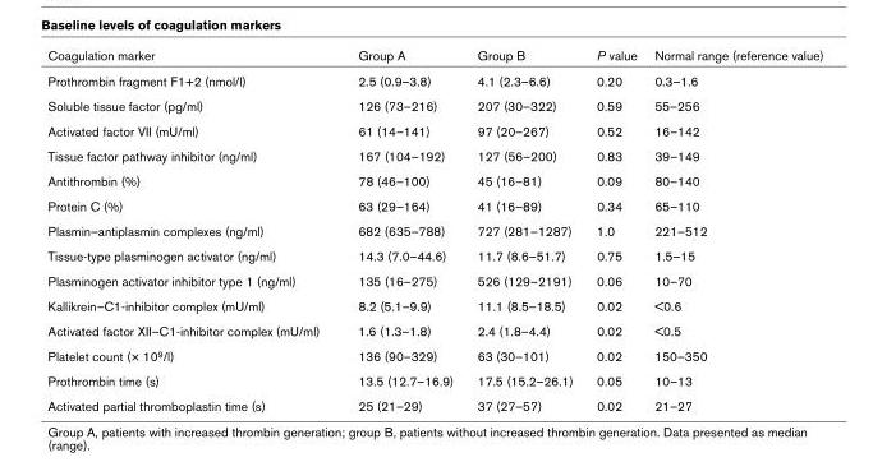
<table><thead><tr><td>Coagulation marker</td><td>Group A</td><td>Group B</td><td>P value</td><td>Normal range (reference value)</td></tr></thead><tbody><tr><td>Prothrombin fragment F1+2 (nmol/l)</td><td>2.5 (0.9–3.8)</td><td>4.1 (2.3–6.6)</td><td>0.20</td><td>0.3–1.6</td></tr><tr><td>Soluble tissue factor (pg/ml)</td><td>126 (73–216)</td><td>207 (30–322)</td><td>0.59</td><td>55–256</td></tr><tr><td>Activated factor VII (mU/ml)</td><td>61 (14–141)</td><td>97 (20–267)</td><td>0.52</td><td>16–142</td></tr><tr><td>Tissue factor pathway inhibitor (ng/ml)</td><td>167 (104–192)</td><td>127 (56–200)</td><td>0.83</td><td>39–149</td></tr><tr><td>Antithrombin (%)</td><td>78 (46–100)</td><td>45 (16–81)</td><td>0.09</td><td>80–140</td></tr><tr><td>Protein C (%)</td><td>63 (29–164)</td><td>41 (16–89)</td><td>0.34</td><td>65–110</td></tr><tr><td>Plasmin–antiplasmin complexes (ng/ml)</td><td>682 (635–788)</td><td>727 (281–1287)</td><td>1.0</td><td>221–512</td></tr><tr><td>Tissue-type plasminogen activator (ng/ml)</td><td>14.3 (7.0–44.6)</td><td>11.7 (8.6–51.7)</td><td>0.75</td><td>1.5–15</td></tr><tr><td>Plasminogen activator inhibitor type 1 (ng/ml)</td><td>135 (16–275)</td><td>526 (129–2191)</td><td>0.06</td><td>10–70</td></tr><tr><td>Kallikrein–C1-inhibitor complex (mU/ml)</td><td>8.2 (5.1–9.9)</td><td>11.1 (8.5–18.5)</td><td>0.02</td><td>&lt;0.6</td></tr><tr><td>Activated factor XII–C1-inhibitor complex (mU/ml)</td><td>1.6 (1.3–1.8)</td><td>2.4 (1.8–4.4)</td><td>0.02</td><td>&lt;0.5</td></tr><tr><td>Platelet count (× 109/l)</td><td>136 (90–329)</td><td>63 (30–101)</td><td>0.02</td><td>150–350</td></tr><tr><td>Prothrombin time (s)</td><td>13.5 (12.7–16.9)</td><td>17.5 (15.2–26.1)</td><td>0.05</td><td>10–13</td></tr><tr><td>Activated partial thromboplastin time (s)</td><td>25 (21–29)</td><td>37 (27–57)</td><td>0.02</td><td>21–27</td></tr></tbody></table>